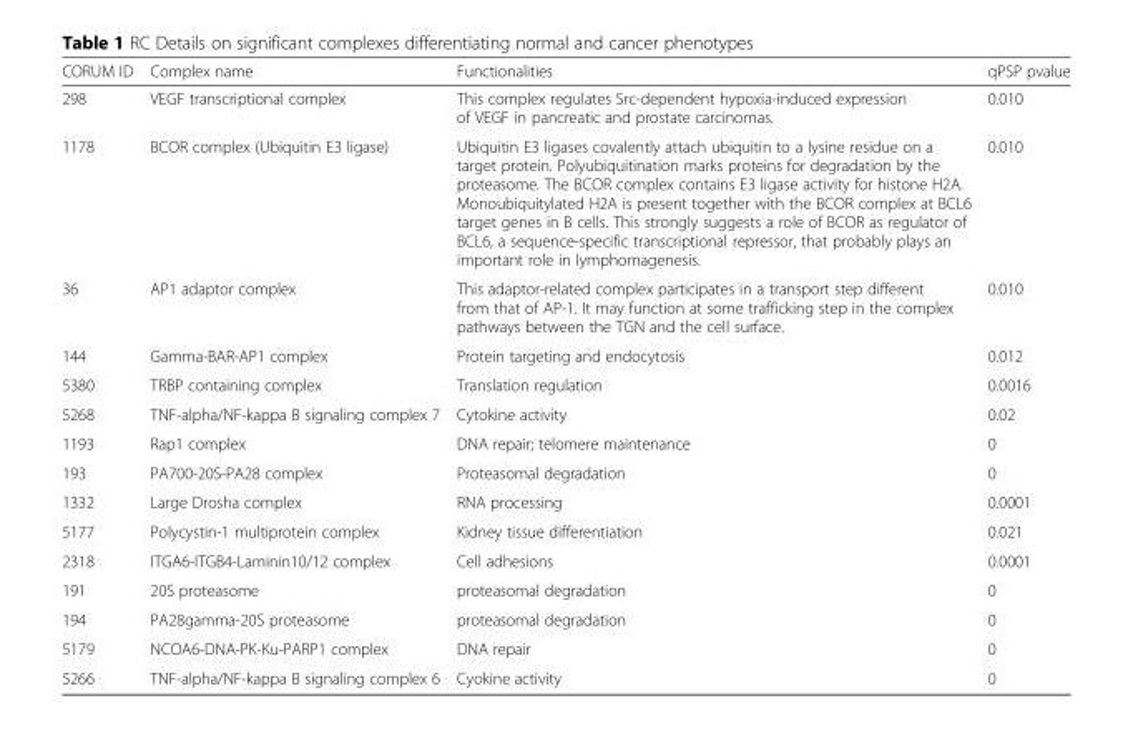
<table><thead><tr><td>CORUM ID</td><td>Complex name</td><td>Functionalities</td><td>qPSP pvalue</td></tr></thead><tbody><tr><td>298</td><td>VEGF transcriptional complex</td><td>This complex regulates Src-dependent hypoxia-induced expression of VEGF in pancreatic and prostate carcinomas.</td><td>0.010</td></tr><tr><td>1178</td><td>BCOR complex (Ubiquitin E3 ligase)</td><td>Ubiquitin E3 ligases covalently attach ubiquitin to a lysine residue on a target protein. Polyubiquitination marks proteins for degradation by the proteasome. The BCOR complex contains E3 ligase activity for histone H2A. Monoubiquitylated H2A is present together with the BCOR complex at BCL6 target genes in B cells. This strongly suggests a role of BCOR as regulator of BCL6, a sequence-specific transcriptional repressor, that probably plays an important role in lymphomagenesis.</td><td>0.010</td></tr><tr><td>36</td><td>AP1 adaptor complex</td><td>This adaptor-related complex participates in a transport step different from that of AP-1. It may function at some trafficking step in the complex pathways between the TGN and the cell surface.</td><td>0.010</td></tr><tr><td>144</td><td>Gamma-BAR-AP1 complex</td><td>Protein targeting and endocytosis</td><td>0.012</td></tr><tr><td>5380</td><td>TRBP containing complex</td><td>Translation regulation</td><td>0.0016</td></tr><tr><td>5268</td><td>TNF-alpha/NF-kappa B signaling complex 7</td><td>Cytokine activity</td><td>0.02</td></tr><tr><td>1193</td><td>Rap1 complex</td><td>DNA repair; telomere maintenance</td><td>0</td></tr><tr><td>193</td><td>PA700-20S-PA28 complex</td><td>Proteasomal degradation</td><td>0</td></tr><tr><td>1332</td><td>Large Drosha complex</td><td>RNA processing</td><td>0.0001</td></tr><tr><td>5177</td><td>Polycystin-1 multiprotein complex</td><td>Kidney tissue differentiation</td><td>0.021</td></tr><tr><td>2318</td><td>ITGA6-ITGB4-Laminin10/12 complex</td><td>Cell adhesions</td><td>0.0001</td></tr><tr><td>191</td><td>20S proteasome</td><td>proteasomal degradation</td><td>0</td></tr><tr><td>194</td><td>PA28gamma-20S proteasome</td><td>proteasomal degradation</td><td>0</td></tr><tr><td>5179</td><td>NCOA6-DNA-PK-Ku-PARP1 complex</td><td>DNA repair</td><td>0</td></tr><tr><td>5266</td><td>TNF-alpha/NF-kappa B signaling complex 6</td><td>Cyokine activity</td><td>0</td></tr></tbody></table>